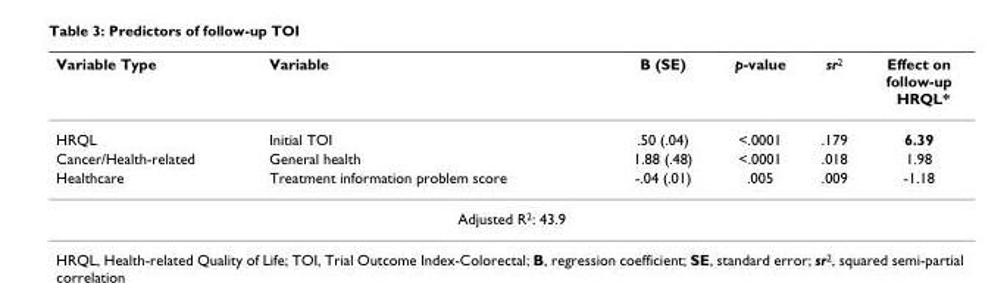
<table><thead><tr><td>Variable Type</td><td>Variable</td><td>B (SE)</td><td>p-value</td><td>sr<sup>2</sup></td><td>Effect on follow-up HRQL*</td></tr></thead><tbody><tr><td>HRQL</td><td>Initial TOI</td><td>.50 (.04)</td><td>&lt;.0001</td><td>.179</td><td>6.39</td></tr><tr><td>Cancer/Health-related</td><td>General health</td><td>1.88 (.48)</td><td>&lt;.0001</td><td>.018</td><td>1.98</td></tr><tr><td>Healthcare</td><td>Treatment information problem score</td><td>-.04 (.01)</td><td>.005</td><td>.009</td><td>-1.18</td></tr><tr><td colspan="6">Adjusted R<sup>2</sup>: 43.9</td></tr></tbody></table>